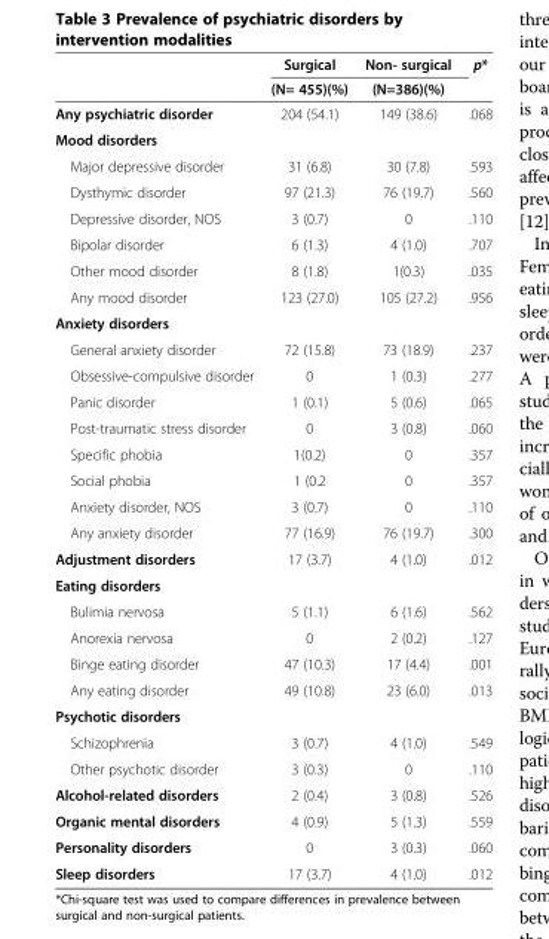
<table><thead><tr><td rowspan="2"></td><td rowspan="2">Surgical (N= 455)(%)</td><td rowspan="2">Non- surgical (N=386)(%)</td><td rowspan="2">p*</td></tr><tr></tr></thead><tbody><tr><td>Any psychiatric disorder</td><td>204 (54.1)</td><td>149 (38.6)</td><td>.068</td></tr><tr><td colspan="4">Mood disorders</td></tr><tr><td>Major depressive disorder</td><td>31 (6.8)</td><td>30 (7.8)</td><td>.593</td></tr><tr><td>Dysthymic disorder</td><td>97 (21.3)</td><td>76 (19.7)</td><td>.560</td></tr><tr><td>Depressive disorder, NOS</td><td>3 (0.7)</td><td>0</td><td>.110</td></tr><tr><td>Bipolar disorder</td><td>6 (1.3)</td><td>4 (1.0)</td><td>.707</td></tr><tr><td>Other mood disorder</td><td>8 (1.8)</td><td>1(0.3)</td><td>.035</td></tr><tr><td>Any mood disorder</td><td>123 (27.0)</td><td>105 (27.2)</td><td>.956</td></tr><tr><td colspan="4">Anxiety disorders</td></tr><tr><td>General anxiety disorder</td><td>72 (15.8)</td><td>73 (18.9)</td><td>.237</td></tr><tr><td>Obsessive-compulsive disorder</td><td>0</td><td>1 (0.3)</td><td>.277</td></tr><tr><td>Panic disorder</td><td>1 (0.1)</td><td>5 (0.6)</td><td>.065</td></tr><tr><td>Post-traumatic stress disorder</td><td>0</td><td>3 (0.8)</td><td>.060</td></tr><tr><td>Specific phobia</td><td>1(0.2)</td><td>0</td><td>.357</td></tr><tr><td>Social phobia</td><td>1 (0.2</td><td>0</td><td>.357</td></tr><tr><td>Anxiety disorder, NOS</td><td>3 (0.7)</td><td>0</td><td>.110</td></tr><tr><td>Any anxiety disorder</td><td>77 (16.9)</td><td>76 (19.7)</td><td>.300</td></tr><tr><td>Adjustment disorders</td><td>17 (3.7)</td><td>4 (1.0)</td><td>.012</td></tr><tr><td colspan="4">Eating disorders</td></tr><tr><td>Bulimia nervosa</td><td>5 (1.1)</td><td>6 (1.6)</td><td>.562</td></tr><tr><td>Anorexia nervosa</td><td>0</td><td>2 (0.2)</td><td>.127</td></tr><tr><td>Binge eating disorder</td><td>47 (10.3)</td><td>17 (4.4)</td><td>.001</td></tr><tr><td>Any eating disorder</td><td>49 (10.8)</td><td>23 (6.0)</td><td>.013</td></tr><tr><td colspan="4">Psychotic disorders</td></tr><tr><td>Schizophrenia</td><td>3 (0.7)</td><td>4 (1.0)</td><td>.549</td></tr><tr><td>Other psychotic disorder</td><td>3 (0.3)</td><td>0</td><td>.110</td></tr><tr><td>Alcohol-related disorders</td><td>2 (0.4)</td><td>3 (0.8)</td><td>.526</td></tr><tr><td>Organic mental disorders</td><td>4 (0.9)</td><td>5 (1.3)</td><td>.559</td></tr><tr><td>Personality disorders</td><td>0</td><td>3 (0.3)</td><td>.060</td></tr><tr><td>Sleep disorders</td><td>17 (3.7)</td><td>4 (1.0)</td><td>.012</td></tr></tbody></table>